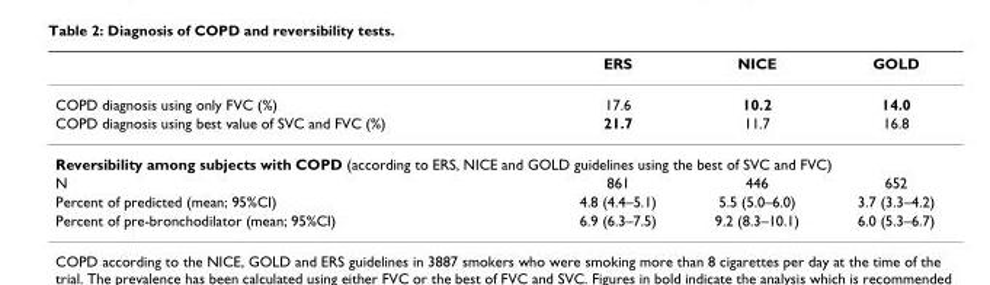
<table><thead><tr><td></td><td>ERS</td><td>NICE</td><td>GOLD</td></tr></thead><tbody><tr><td>COPD diagnosis using only FVC (%)</td><td>17.6</td><td>10.2</td><td>14.0</td></tr><tr><td>COPD diagnosis using best value of SVC and FVC (%)</td><td>21.7</td><td>11.7</td><td>16.8</td></tr><tr><td colspan="4">Reversibility among subjects with COPD (according to ERS, NICE and GOLD guidelines using the best of SVC and FVC)</td></tr><tr><td>N</td><td>861</td><td>446</td><td>652</td></tr><tr><td>Percent of predicted (mean; 95%CI)</td><td>4.8 (4.4–5.1)</td><td>5.5 (5.0–6.0)</td><td>3.7 (3.3–4.2)</td></tr><tr><td>Percent of pre-bronchodilator (mean; 95%CI)</td><td>6.9 (6.3–7.5)</td><td>9.2 (8.3–10.1)</td><td>6.0 (5.3–6.7)</td></tr></tbody></table>